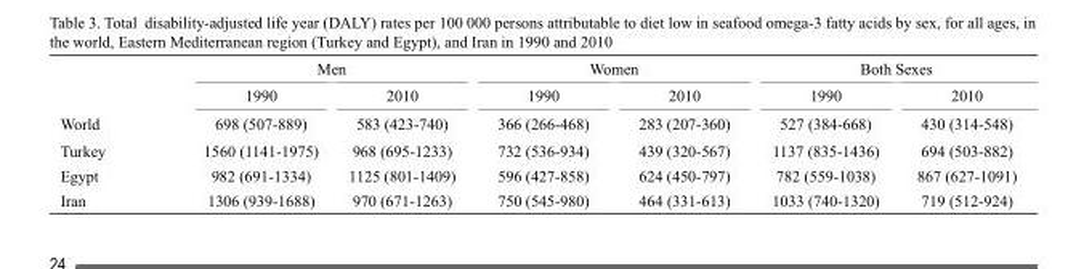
<table><thead><tr><td rowspan="2"></td><td colspan="2">Men</td><td colspan="2">Women</td><td colspan="2">Both Sexes</td></tr><tr><td>1990</td><td>2010</td><td>1990</td><td>2010</td><td>1990</td><td>2010</td></tr></thead><tbody><tr><td>World</td><td>698 (507-889)</td><td>583 (423-740)</td><td>366 (266-468)</td><td>283 (207-360)</td><td>527 (384-668)</td><td>430 (314-548)</td></tr><tr><td>Turkey</td><td>1560 (1141-1975)</td><td>968 (695-1233)</td><td>732 (536-934)</td><td>439 (320-567)</td><td>1137 (835-1436)</td><td>694 (503-882)</td></tr><tr><td>Egypt</td><td>982 (691-1334)</td><td>1125 (801-1409)</td><td>596 (427-858)</td><td>624 (450-797)</td><td>782 (559-1038)</td><td>867 (627-1091)</td></tr><tr><td>Iran</td><td>1306 (939-1688)</td><td>970 (671-1263)</td><td>750 (545-980)</td><td>464 (331-613)</td><td>1033 (740-1320)</td><td>719 (512-924)</td></tr></tbody></table>